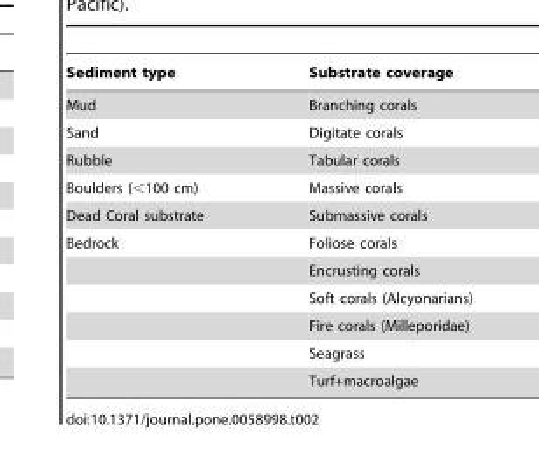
<table><thead><tr><td>Sediment type</td><td>Substrate coverage</td></tr></thead><tbody><tr><td>Mud</td><td>Branching corals</td></tr><tr><td>Sand</td><td>Digitate corals</td></tr><tr><td>Rubble</td><td>Tabular corals</td></tr><tr><td>Boulders (&lt;100 cm)</td><td>Massive corals</td></tr><tr><td>Dead Coral substrate</td><td>Submassive corals</td></tr><tr><td rowspan="6">Bedrock</td><td>Foliose corals</td></tr><tr><td>Encrusting corals</td></tr><tr><td>Soft corals (Alcyonarians)</td></tr><tr><td>Fire corals (Milleporidae)</td></tr><tr><td>Seagrass</td></tr><tr><td>Turf+macroalgae</td></tr></tbody></table>